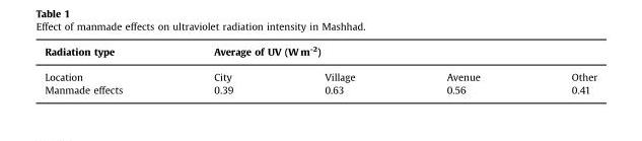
<table><thead><tr><td rowspan="2">Radiation type Location</td><td colspan="4">Average of UV (W m<sup>-2</sup>)</td></tr><tr><td>City</td><td>Village</td><td>Avenue</td><td>Other</td></tr></thead><tbody><tr><td>Manmade effects</td><td>0.39</td><td>0.63</td><td>0.56</td><td>0.41</td></tr></tbody></table>